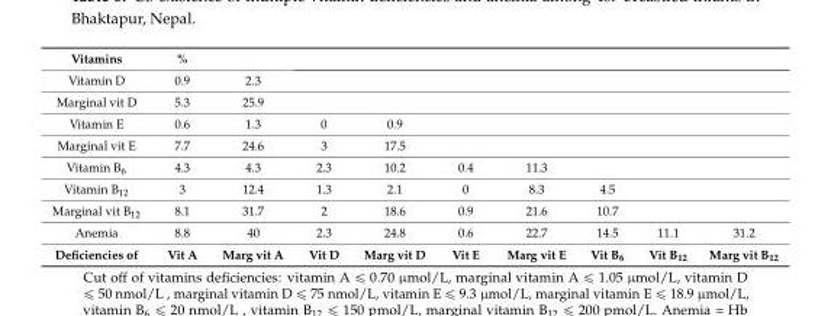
<table><tbody><tr><td>Vitamins</td><td>%</td><td></td><td></td><td></td><td></td><td></td><td></td><td></td><td></td></tr><tr><td>Vitamin D</td><td>0.9</td><td>2.3</td><td></td><td></td><td></td><td></td><td></td><td></td><td></td></tr><tr><td>Marginal vit D</td><td>5.3</td><td>25.9</td><td></td><td></td><td></td><td></td><td></td><td></td><td></td></tr><tr><td>Vitamin E</td><td>0.6</td><td>1.3</td><td>0</td><td>0.9</td><td></td><td></td><td></td><td></td><td></td></tr><tr><td>Marginal vit E</td><td>7.7</td><td>24.6</td><td>3</td><td>17.5</td><td></td><td></td><td></td><td></td><td></td></tr><tr><td>Vitamin B<sub>6</sub></td><td>4.3</td><td>4.3</td><td>2.3</td><td>10.2</td><td>0.4</td><td>11.3</td><td></td><td></td><td></td></tr><tr><td>Vitamin B<sub>12</sub></td><td>3</td><td>12.4</td><td>1.3</td><td>2.1</td><td>0</td><td>8.3</td><td>4.5</td><td></td><td></td></tr><tr><td>Marginal vit B<sub>12</sub></td><td>8.1</td><td>31.7</td><td>2</td><td>18.6</td><td>0.9</td><td>21.6</td><td>10.7</td><td></td><td></td></tr><tr><td>Anemia</td><td>8.8</td><td>40</td><td>2.3</td><td>24.8</td><td>0.6</td><td>22.7</td><td>14.5</td><td>11.1</td><td>31.2</td></tr><tr><td>Deficiencies of</td><td>Vit A</td><td>Marg vit A</td><td>Vit D</td><td>Marg vit D</td><td>Vit E</td><td>Marg vit E</td><td>Vit B<sub>6</sub></td><td>Vit B<sub>12</sub></td><td>Marg vit B<sub>12</sub></td></tr></tbody></table>